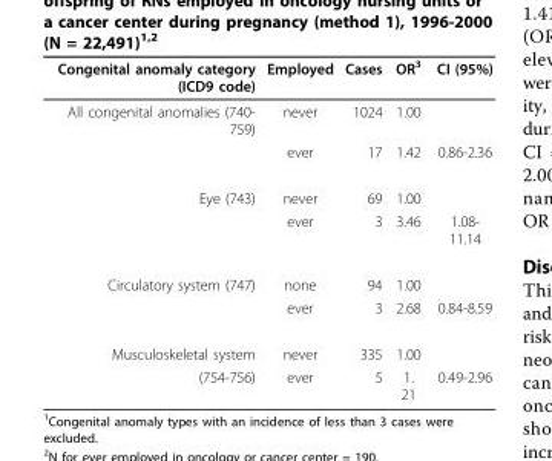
<table><thead><tr><td>Congenital anomaly category (ICD9 code)</td><td>Employed</td><td>Cases</td><td>OR<sup>3</sup></td><td>CI (95%)</td></tr></thead><tbody><tr><td rowspan="2">All congenital anomalies (740- 759)</td><td>never</td><td>1024</td><td>1.00</td><td></td></tr><tr><td>ever</td><td>17</td><td>1.42</td><td>0.86-2.36</td></tr><tr><td rowspan="2">Eye (743)</td><td>never</td><td>69</td><td>1.00</td><td></td></tr><tr><td>ever</td><td>3</td><td>3.46</td><td>1.08- 11.14</td></tr><tr><td rowspan="2">Circulatory system (747)</td><td>none</td><td>94</td><td>1.00</td><td></td></tr><tr><td>ever</td><td>3</td><td>2.68</td><td>0.84-8.59</td></tr><tr><td>Musculoskeletal system</td><td>never</td><td>335</td><td>1.00</td><td></td></tr><tr><td>(754-756)</td><td>ever</td><td>5</td><td>1. 21</td><td>0.49-2.96</td></tr></tbody></table>